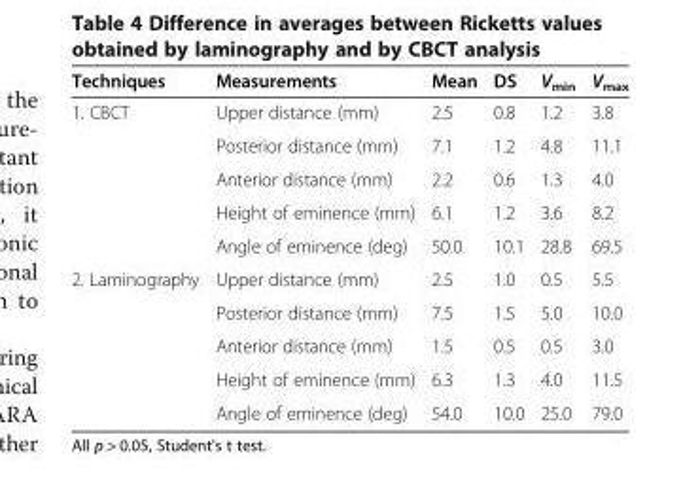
<table><thead><tr><td>Techniques</td><td>Measurements</td><td>Mean</td><td>DS</td><td>V<sub>min</sub></td><td>V<sub>max</sub></td></tr></thead><tbody><tr><td rowspan="5">1. CBCT</td><td>Upper distance (mm)</td><td>2.5</td><td>0.8</td><td>1.2</td><td>3.8</td></tr><tr><td>Posterior distance (mm)</td><td>7.1</td><td>1.2</td><td>4.8</td><td>11.1</td></tr><tr><td>Anterior distance (mm)</td><td>2.2</td><td>0.6</td><td>1.3</td><td>4.0</td></tr><tr><td>Height of eminence (mm)</td><td>6.1</td><td>1.2</td><td>3.6</td><td>8.2</td></tr><tr><td>Angle of eminence (deg)</td><td>50.0</td><td>10.1</td><td>28.8</td><td>69.5</td></tr><tr><td rowspan="5">2. Laminography</td><td>Upper distance (mm)</td><td>2.5</td><td>1.0</td><td>0.5</td><td>5.5</td></tr><tr><td>Posterior distance (mm)</td><td>7.5</td><td>1.5</td><td>5.0</td><td>10.0</td></tr><tr><td>Anterior distance (mm)</td><td>1.5</td><td>0.5</td><td>0.5</td><td>3.0</td></tr><tr><td>Height of eminence (mm)</td><td>6.3</td><td>1.3</td><td>4.0</td><td>11.5</td></tr><tr><td>Angle of eminence (deg)</td><td>54.0</td><td>10.0</td><td>25.0</td><td>79.0</td></tr></tbody></table>